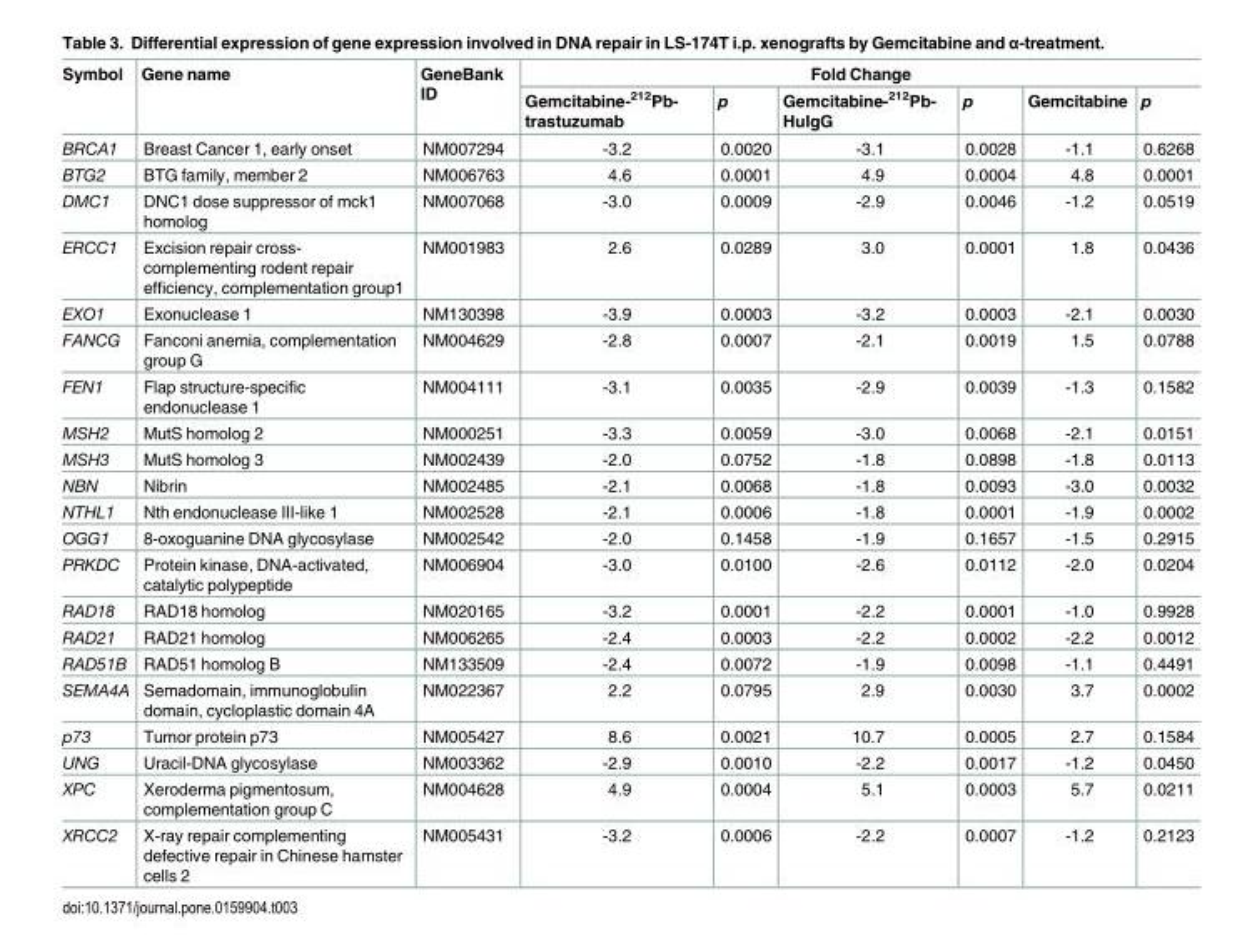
<table><thead><tr><td rowspan="2">Symbol</td><td rowspan="2">Gene name</td><td rowspan="2">GeneBank ID</td><td colspan="6">Fold Change</td></tr><tr><td>Gemcitabine-<sup>212</sup>Pb- trastuzumab</td><td>p</td><td>Gemcitabine-<sup>212</sup>Pb- HuIgG</td><td>p</td><td>Gemcitabine</td><td>p</td></tr></thead><tbody><tr><td>BRCA1</td><td>Breast Cancer 1, early onset</td><td>NM007294</td><td>-3.2</td><td>0.0020</td><td>-3.1</td><td>0.0028</td><td>-1.1</td><td>0.6268</td></tr><tr><td>BTG2</td><td>BTG family, member 2</td><td>NM006763</td><td>4.6</td><td>0.0001</td><td>4.9</td><td>0.0004</td><td>4.8</td><td>0.0001</td></tr><tr><td>DMC1</td><td>DNC1 dose suppressor of mck1 homolog</td><td>NM007068</td><td>-3.0</td><td>0.0009</td><td>-2.9</td><td>0.0046</td><td>-1.2</td><td>0.0519</td></tr><tr><td>ERCC1</td><td>Excision repair cross- complementing rodent repair efficiency, complementation group1</td><td>NM001983</td><td>2.6</td><td>0.0289</td><td>3.0</td><td>0.0001</td><td>1.8</td><td>0.0436</td></tr><tr><td>EXO1</td><td>Exonuclease 1</td><td>NM130398</td><td>-3.9</td><td>0.0003</td><td>-3.2</td><td>0.0003</td><td>-2.1</td><td>0.0030</td></tr><tr><td>FANCG</td><td>Fanconi anemia, complementation group G</td><td>NM004629</td><td>-2.8</td><td>0.0007</td><td>-2.1</td><td>0.0019</td><td>1.5</td><td>0.0788</td></tr><tr><td>FEN1</td><td>Flap structure-specific endonuclease 1</td><td>NM004111</td><td>-3.1</td><td>0.0035</td><td>-2.9</td><td>0.0039</td><td>-1.3</td><td>0.1582</td></tr><tr><td>MSH2</td><td>MutS homolog 2</td><td>NM000251</td><td>-3.3</td><td>0.0059</td><td>-3.0</td><td>0.0068</td><td>-2.1</td><td>0.0151</td></tr><tr><td>MSH3</td><td>MutS homolog 3</td><td>NM002439</td><td>-2.0</td><td>0.0752</td><td>-1.8</td><td>0.0898</td><td>-1.8</td><td>0.0113</td></tr><tr><td>NBN</td><td>Nibrin</td><td>NM002485</td><td>-2.1</td><td>0.0068</td><td>-1.8</td><td>0.0093</td><td>-3.0</td><td>0.0032</td></tr><tr><td>NTHL1</td><td>Nth endonuclease III-like 1</td><td>NM002528</td><td>-2.1</td><td>0.0006</td><td>-1.8</td><td>0.0001</td><td>-1.9</td><td>0.0002</td></tr><tr><td>OGG1</td><td>8-oxoguanine DNA glycosylase</td><td>NM002542</td><td>-2.0</td><td>0.1458</td><td>-1.9</td><td>0.1657</td><td>-1.5</td><td>0.2915</td></tr><tr><td>PRKDC</td><td>Protein kinase, DNA-activated, catalytic polypeptide</td><td>NM006904</td><td>-3.0</td><td>0.0100</td><td>-2.6</td><td>0.0112</td><td>-2.0</td><td>0.0204</td></tr><tr><td>RAD18</td><td>RAD18 homolog</td><td>NM020165</td><td>-3.2</td><td>0.0001</td><td>-2.2</td><td>0.0001</td><td>-1.0</td><td>0.9928</td></tr><tr><td>RAD21</td><td>RAD21 homolog</td><td>NM006265</td><td>-2.4</td><td>0.0003</td><td>-2.2</td><td>0.0002</td><td>-2.2</td><td>0.0012</td></tr><tr><td>RAD51B</td><td>RAD51 homolog B</td><td>NM133509</td><td>-2.4</td><td>0.0072</td><td>-1.9</td><td>0.0098</td><td>-1.1</td><td>0.4491</td></tr><tr><td>SEMA4A</td><td>Semadomain, immunoglobulin domain, cycloplastic domain 4A</td><td>NM022367</td><td>2.2</td><td>0.0795</td><td>2.9</td><td>0.0030</td><td>3.7</td><td>0.0002</td></tr><tr><td>p73</td><td>Tumor protein p73</td><td>NM005427</td><td>8.6</td><td>0.0021</td><td>10.7</td><td>0.0005</td><td>2.7</td><td>0.1584</td></tr><tr><td>UNG</td><td>Uracil-DNA glycosylase</td><td>NM003362</td><td>-2.9</td><td>0.0010</td><td>-2.2</td><td>0.0017</td><td>-1.2</td><td>0.0450</td></tr><tr><td>XPC</td><td>Xeroderma pigmentosum, complementation group C</td><td>NM004628</td><td>4.9</td><td>0.0004</td><td>5.1</td><td>0.0003</td><td>5.7</td><td>0.0211</td></tr><tr><td>XRCC2</td><td>X-ray repair complementing defective repair in Chinese hamster cells 2</td><td>NM005431</td><td>-3.2</td><td>0.0006</td><td>-2.2</td><td>0.0007</td><td>-1.2</td><td>0.2123</td></tr></tbody></table>